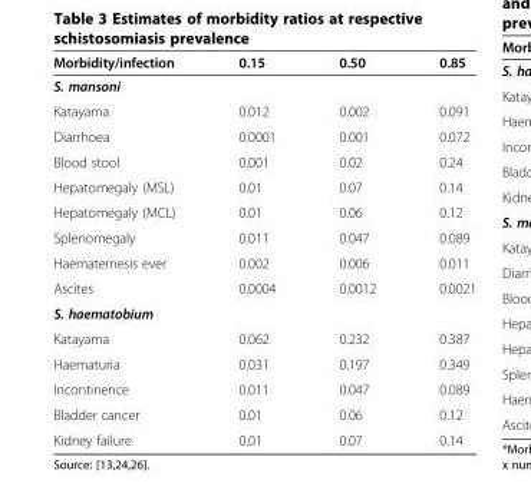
<table><thead><tr><td>Morbidity/infection</td><td>0.15</td><td>0.50</td><td>0.85</td></tr></thead><tbody><tr><td colspan="4">S. mansoni</td></tr><tr><td>Katayama</td><td>0.012</td><td>0.002</td><td>0.091</td></tr><tr><td>Diarrhoea</td><td>0.0001</td><td>0.001</td><td>0.072</td></tr><tr><td>Blood stool</td><td>0.001</td><td>0.02</td><td>0.24</td></tr><tr><td>Hepatomegaly (MSL)</td><td>0.01</td><td>0.07</td><td>0.14</td></tr><tr><td>Hepatomegaly (MCL)</td><td>0.01</td><td>0.06</td><td>0.12</td></tr><tr><td>Splenomegaly</td><td>0.011</td><td>0.047</td><td>0.089</td></tr><tr><td>Haematemesis ever</td><td>0.002</td><td>0.006</td><td>0.011</td></tr><tr><td>Ascites</td><td>0.0004</td><td>0.0012</td><td>0.0021</td></tr><tr><td colspan="4">S. haematobium</td></tr><tr><td>Katayama</td><td>0.062</td><td>0.232</td><td>0.387</td></tr><tr><td>Haematuria</td><td>0.031</td><td>0.197</td><td>0.349</td></tr><tr><td>Incontinence</td><td>0.011</td><td>0.047</td><td>0.089</td></tr><tr><td>Bladder cancer</td><td>0.01</td><td>0.06</td><td>0.12</td></tr><tr><td>Kidney failure</td><td>0.01</td><td>0.07</td><td>0.14</td></tr></tbody></table>